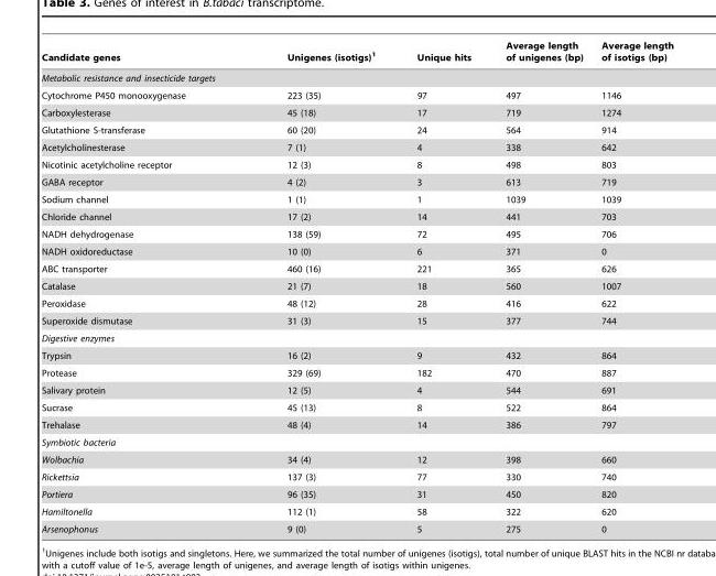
<table><thead><tr><td>Candidate genes</td><td>Unigenes (isotigs)<sup>1</sup></td><td>Unique hits</td><td>Average length of unigenes (bp)</td><td>Average length of isotigs (bp)</td></tr></thead><tbody><tr><td colspan="5">Metabolic resistance and insecticide targets</td></tr><tr><td>Cytochrome P450 monooxygenase</td><td>223 (35)</td><td>97</td><td>497</td><td>1146</td></tr><tr><td>Carboxylesterase</td><td>45 (18)</td><td>17</td><td>719</td><td>1274</td></tr><tr><td>Glutathione S-transferase</td><td>60 (20)</td><td>24</td><td>564</td><td>914</td></tr><tr><td>Acetylcholinesterase</td><td>7 (1)</td><td>4</td><td>338</td><td>642</td></tr><tr><td>Nicotinic acetylcholine receptor</td><td>12 (3)</td><td>8</td><td>498</td><td>803</td></tr><tr><td>GABA receptor</td><td>4 (2)</td><td>3</td><td>613</td><td>719</td></tr><tr><td>Sodium channel</td><td>1 (1)</td><td>1</td><td>1039</td><td>1039</td></tr><tr><td>Chloride channel</td><td>17 (2)</td><td>14</td><td>441</td><td>703</td></tr><tr><td>NADH dehydrogenase</td><td>138 (59)</td><td>72</td><td>495</td><td>706</td></tr><tr><td>NADH oxidoreductase</td><td>10 (0)</td><td>6</td><td>371</td><td>0</td></tr><tr><td>ABC transporter</td><td>460 (16)</td><td>221</td><td>365</td><td>626</td></tr><tr><td>Catalase</td><td>21 (7)</td><td>18</td><td>560</td><td>1007</td></tr><tr><td>Peroxidase</td><td>48 (12)</td><td>28</td><td>416</td><td>622</td></tr><tr><td>Superoxide dismutase</td><td>31 (3)</td><td>15</td><td>377</td><td>744</td></tr><tr><td colspan="5">Digestive enzymes</td></tr><tr><td>Trypsin</td><td>16 (2)</td><td>9</td><td>432</td><td>864</td></tr><tr><td>Protease</td><td>329 (69)</td><td>182</td><td>470</td><td>887</td></tr><tr><td>Salivary protein</td><td>12 (5)</td><td>4</td><td>544</td><td>691</td></tr><tr><td>Sucrase</td><td>45 (13)</td><td>8</td><td>522</td><td>864</td></tr><tr><td>Trehalase</td><td>48 (4)</td><td>14</td><td>386</td><td>797</td></tr><tr><td colspan="5">Symbiotic bacteria</td></tr><tr><td>Wolbachia</td><td>34 (4)</td><td>12</td><td>398</td><td>660</td></tr><tr><td>Rickettsia</td><td>137 (3)</td><td>77</td><td>330</td><td>740</td></tr><tr><td>Portiera</td><td>96 (35)</td><td>31</td><td>450</td><td>820</td></tr><tr><td>Hamiltonella</td><td>112 (1)</td><td>58</td><td>322</td><td>620</td></tr><tr><td>Arsenophonus</td><td>9 (0)</td><td>5</td><td>275</td><td>0</td></tr></tbody></table>